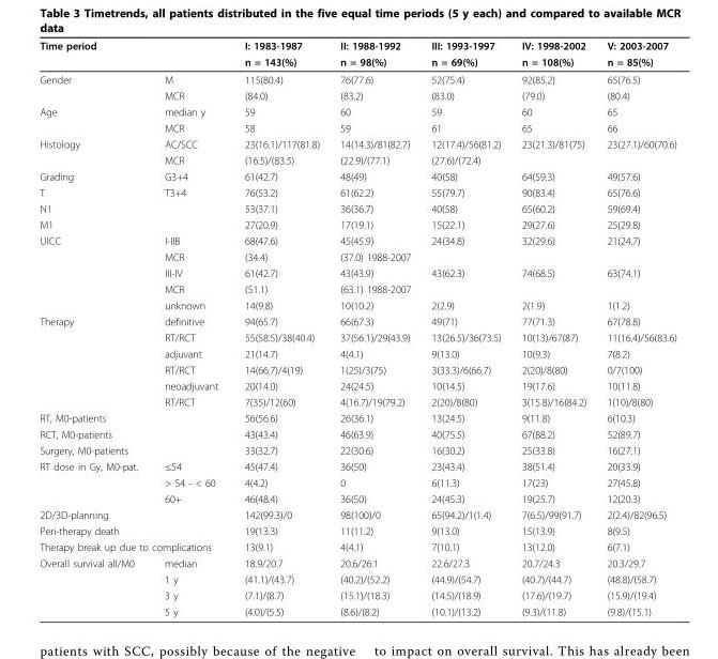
<table><thead><tr><td rowspan="2">Time period</td><td rowspan="2"></td><td rowspan="2">I: 1983-1987 n = 143(%)</td><td rowspan="2">II: 1988-1992 n = 98(%)</td><td rowspan="2">III: 1993-1997 n = 69(%)</td><td rowspan="2">IV: 1998-2002 n = 108(%)</td><td rowspan="2">V: 2003-2007 n = 85(%)</td></tr><tr></tr></thead><tbody><tr><td rowspan="2">Gender</td><td>M</td><td>115(80.4)</td><td>76(77.6)</td><td>52(75.4)</td><td>92(85.2)</td><td>65(76.5)</td></tr><tr><td>MCR</td><td>(84.0)</td><td>(83.2)</td><td>(83.0)</td><td>(79.0)</td><td>(80.4)</td></tr><tr><td rowspan="2">Age</td><td>median y</td><td>59</td><td>60</td><td>59</td><td>60</td><td>65</td></tr><tr><td>MCR</td><td>58</td><td>59</td><td>61</td><td>65</td><td>66</td></tr><tr><td rowspan="2">Histology</td><td>AC/SCC</td><td>23(16.1)/117(81.8)</td><td>14(14.3)/81(82.7)</td><td>12(17.4)/56(81.2)</td><td>23(21.3)/81(75)</td><td>23(27.1)/60(70.6)</td></tr><tr><td>MCR</td><td>(16.5)/(83.5)</td><td>(22.9)/(77.1)</td><td>(27.6)/(72.4)</td><td></td><td></td></tr><tr><td>Grading</td><td>G3+4</td><td>61(42.7)</td><td>48(49)</td><td>40(58)</td><td>64(59.3)</td><td>49(57.6)</td></tr><tr><td>T</td><td>T3+4</td><td>76(53.2)</td><td>61(62.2)</td><td>55(79.7)</td><td>90(83.4)</td><td>65(76.6)</td></tr><tr><td>N1</td><td></td><td>53(37.1)</td><td>36(36.7)</td><td>40(58)</td><td>65(60.2)</td><td>59(69.4)</td></tr><tr><td>M1</td><td></td><td>27(20.9)</td><td>17(19.1)</td><td>15(22.1)</td><td>29(27.6)</td><td>25(29.8)</td></tr><tr><td rowspan="5">UICC</td><td>I-IIB</td><td>68(47.6)</td><td>45(45.9)</td><td>24(34.8)</td><td>32(29.6)</td><td>21(24.7)</td></tr><tr><td>MCR</td><td>(34.4)</td><td>(37.0) 1988-2007</td><td></td><td></td><td></td></tr><tr><td>III-IV</td><td>61(42.7)</td><td>43(43.9)</td><td>43(62.3)</td><td>74(68.5)</td><td>63(74.1)</td></tr><tr><td>MCR</td><td>(51.1)</td><td>(63.1) 1988-2007</td><td></td><td></td><td></td></tr><tr><td>unknown</td><td>14(9.8)</td><td>10(10.2)</td><td>2(2.9)</td><td>2(1.9)</td><td>1(1.2)</td></tr><tr><td rowspan="6">Therapy</td><td>definitive</td><td>94(65.7)</td><td>66(67.3)</td><td>49(71)</td><td>77(71.3)</td><td>67(78.8)</td></tr><tr><td>RT/RCT</td><td>55(58.5)/38(40.4)</td><td>37(56.1)/29(43.9)</td><td>13(26.5)/36(73.5)</td><td>10(13)/67(87)</td><td>11(16.4)/56(83.6)</td></tr><tr><td>adjuvant</td><td>21(14.7)</td><td>4(4.1)</td><td>9(13.0)</td><td>10(9.3)</td><td>7(8.2)</td></tr><tr><td>RT/RCT</td><td>14(66.7)/4(19)</td><td>1(25)/3(75)</td><td>3(33.3)/6(66.7)</td><td>2(20)/8(80)</td><td>0/7(100)</td></tr><tr><td>neoadjuvant</td><td>20(14.0)</td><td>24(24.5)</td><td>10(14.5)</td><td>19(17.6)</td><td>10(11.8)</td></tr><tr><td>RT/RCT</td><td>7(35)/12(60)</td><td>4(16.7)/19(79.2)</td><td>2(20)/8(80)</td><td>3(15.8)/16(84.2)</td><td>1(10)/8(80)</td></tr><tr><td>RT, M0-patients</td><td></td><td>56(56.6)</td><td>26(36.1)</td><td>13(24.5)</td><td>9(11.8)</td><td>6(10.3)</td></tr><tr><td>RCT, M0-patients</td><td></td><td>43(43.4)</td><td>46(63.9)</td><td>40(75.5)</td><td>67(88.2)</td><td>52(89.7)</td></tr><tr><td>Surgery, M0-patients</td><td></td><td>33(32.7)</td><td>22(30.6)</td><td>16(30.2)</td><td>25(33.8)</td><td>16(27.1)</td></tr><tr><td rowspan="3">RT dose in Gy, M0-pat.</td><td>≤54</td><td>45(47.4)</td><td>36(50)</td><td>23(43.4)</td><td>38(51.4)</td><td>20(33.9)</td></tr><tr><td>&gt; 54 - &lt; 60</td><td>4(4.2)</td><td>0</td><td>6(11.3)</td><td>17(23)</td><td>27(45.8)</td></tr><tr><td>60+</td><td>46(48.4)</td><td>36(50)</td><td>24(45.3)</td><td>19(25.7)</td><td>12(20.3)</td></tr><tr><td>2D/3D-planning</td><td></td><td>142(99.3)/0</td><td>98(100)/0</td><td>65(94.2)/1(1.4)</td><td>7(6.5)/99(91.7)</td><td>2(2.4)/82(96.5)</td></tr><tr><td colspan="2">Peri-therapy death</td><td>19(13.3)</td><td>11(11.2)</td><td>9(13.0)</td><td>15(13.9)</td><td>8(9.5)</td></tr><tr><td colspan="2">Therapy break up due to complications</td><td>13(9.1)</td><td>4(4.1)</td><td>7(10.1)</td><td>13(12.0)</td><td>6(7.1)</td></tr><tr><td rowspan="4">Overall survival all/M0</td><td>median</td><td>18.9/20.7</td><td>20.6/26.1</td><td>22.6/27.3</td><td>20.7/24.3</td><td>20.3/29.7</td></tr><tr><td>1 y</td><td>(41.1)/(43.7)</td><td>(40.2)/(52.2)</td><td>(44.9)/(54.7)</td><td>(40.7)/(44.7)</td><td>(48.8)/(58.7)</td></tr><tr><td>3 y</td><td>(7.1)/(8.7)</td><td>(15.1)/(18.3)</td><td>(14.5)/(18.9)</td><td>(17.6)/(19.7)</td><td>(15.9)/(19.4)</td></tr><tr><td>5 y</td><td>(4.0)/(5.5)</td><td>(8.6)/(8.2)</td><td>(10.1)/(13.2)</td><td>(9.3)/(11.8)</td><td>(9.8)/(15.1)</td></tr></tbody></table>